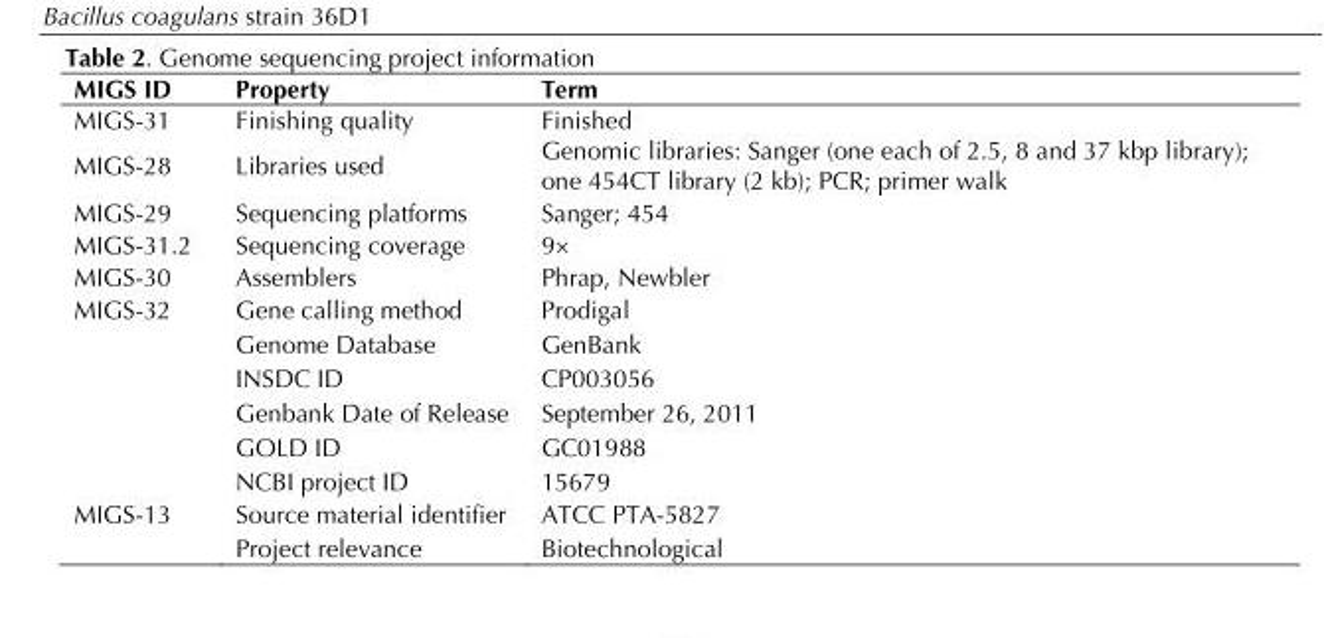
<table><thead><tr><td>MIGS ID</td><td>Property</td><td>Term</td></tr></thead><tbody><tr><td>MIGS-31</td><td>Finishing quality</td><td>Finished</td></tr><tr><td>MIGS-28</td><td>Libraries used</td><td>Genomic libraries: Sanger (one each of 2.5, 8 and 37 kbp library); one 454CT library (2 kb); PCR; primer walk</td></tr><tr><td>MIGS-29</td><td>Sequencing platforms</td><td>Sanger; 454</td></tr><tr><td>MIGS-31.2</td><td>Sequencing coverage</td><td>9×</td></tr><tr><td>MIGS-30</td><td>Assemblers</td><td>Phrap, Newbler</td></tr><tr><td rowspan="6">MIGS-32</td><td>Gene calling method</td><td>Prodigal</td></tr><tr><td>Genome Database</td><td>GenBank</td></tr><tr><td>INSDC ID</td><td>CP003056</td></tr><tr><td>Genbank Date of Release</td><td>September 26, 2011</td></tr><tr><td>GOLD ID</td><td>GC01988</td></tr><tr><td>NCBI project ID</td><td>15679</td></tr><tr><td rowspan="2">MIGS-13</td><td>Source material identifier</td><td>ATCC PTA-5827</td></tr><tr><td>Project relevance</td><td>Biotechnological</td></tr></tbody></table>